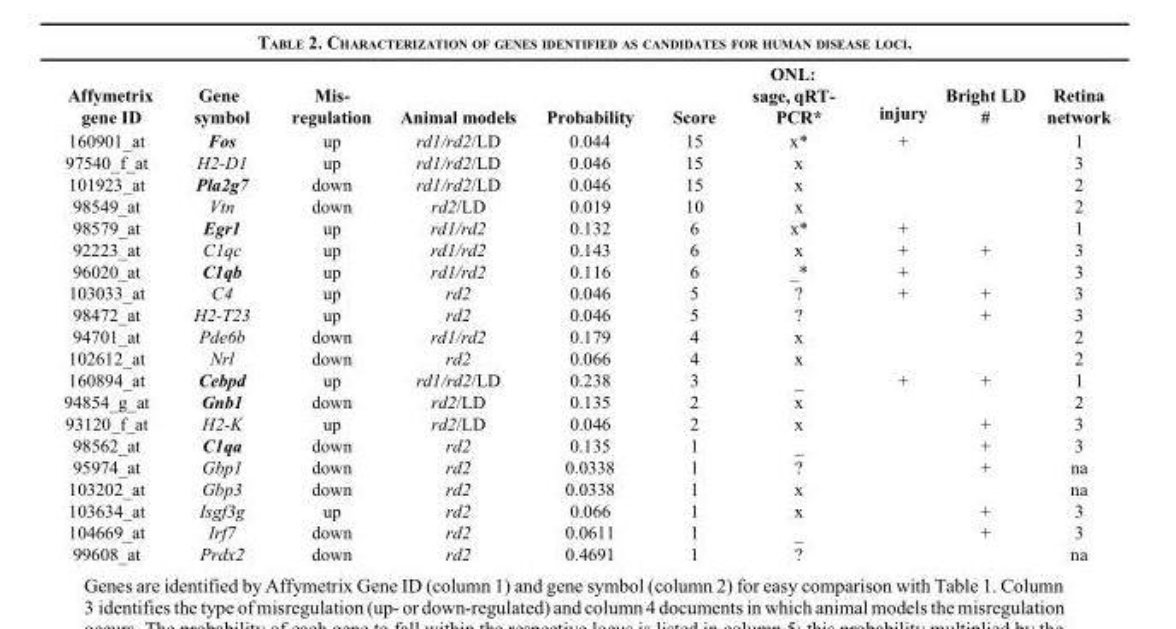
<table><thead><tr><td>Affymetrix gene ID</td><td>Gene symbol</td><td>Mis- regulation</td><td>Animal models</td><td>Probability</td><td>Score</td><td>ONL: sage, qRT- PCR*</td><td>injury</td><td>Bright LD #</td><td>Retina network</td></tr></thead><tbody><tr><td>160901_at</td><td>Fos</td><td>up</td><td>rd1/rd2/LD</td><td>0.044</td><td>15</td><td>x*</td><td>+</td><td></td><td>1</td></tr><tr><td>97540_f_at</td><td>H2-D1</td><td>up</td><td>rd1/rd2/LD</td><td>0.046</td><td>15</td><td>x</td><td></td><td></td><td>3</td></tr><tr><td>101923_at</td><td>Pla2g7</td><td>down</td><td>rd1/rd2/LD</td><td>0.046</td><td>15</td><td>x</td><td></td><td></td><td>2</td></tr><tr><td>98549_at</td><td>Vtn</td><td>down</td><td>rd2/LD</td><td>0.019</td><td>10</td><td>x</td><td></td><td></td><td>2</td></tr><tr><td>98579_at</td><td>Egr1</td><td>up</td><td>rd1/rd2</td><td>0.132</td><td>6</td><td>x*</td><td>+</td><td></td><td>1</td></tr><tr><td>92223_at</td><td>C1qc</td><td>up</td><td>rd1/rd2</td><td>0.143</td><td>6</td><td>x</td><td>+</td><td>+</td><td>3</td></tr><tr><td>96020_at</td><td>C1qb</td><td>up</td><td>rd1/rd2</td><td>0.116</td><td>6</td><td>_*</td><td>+</td><td></td><td>3</td></tr><tr><td>103033_at</td><td>C4</td><td>up</td><td>rd2</td><td>0.046</td><td>5</td><td>?</td><td>+</td><td>+</td><td>3</td></tr><tr><td>98472_at</td><td>H2-T23</td><td>up</td><td>rd2</td><td>0.046</td><td>5</td><td>?</td><td></td><td>+</td><td>3</td></tr><tr><td>94701_at</td><td>Pde6b</td><td>down</td><td>rd1/rd2</td><td>0.179</td><td>4</td><td>x</td><td></td><td></td><td>2</td></tr><tr><td>102612_at</td><td>Nrl</td><td>down</td><td>rd2</td><td>0.066</td><td>4</td><td>x</td><td></td><td></td><td>2</td></tr><tr><td>160894_at</td><td>Cebpd</td><td>up</td><td>rd1/rd2/LD</td><td>0.238</td><td>3</td><td>_</td><td>+</td><td>+</td><td>1</td></tr><tr><td>94854_g_at</td><td>Gnb1</td><td>down</td><td>rd2/LD</td><td>0.135</td><td>2</td><td>x</td><td></td><td></td><td>2</td></tr><tr><td>93120_f_at</td><td>H2-K</td><td>up</td><td>rd2/LD</td><td>0.046</td><td>2</td><td>x</td><td></td><td>+</td><td>3</td></tr><tr><td>98562_at</td><td>C1qa</td><td>down</td><td>rd2</td><td>0.135</td><td>1</td><td>_</td><td></td><td>+</td><td>3</td></tr><tr><td>95974_at</td><td>Gbp1</td><td>down</td><td>rd2</td><td>0.0338</td><td>1</td><td>?</td><td></td><td>+</td><td>na</td></tr><tr><td>103202_at</td><td>Gbp3</td><td>down</td><td>rd2</td><td>0.0338</td><td>1</td><td>x</td><td></td><td></td><td>na</td></tr><tr><td>103634_at</td><td>Isgf3g</td><td>up</td><td>rd2</td><td>0.066</td><td>1</td><td>x</td><td></td><td>+</td><td>3</td></tr><tr><td>104669_at</td><td>Irf7</td><td>down</td><td>rd2</td><td>0.0611</td><td>1</td><td>_</td><td></td><td>+</td><td>3</td></tr><tr><td>99608_at</td><td>Prdx2</td><td>down</td><td>rd2</td><td>0.4691</td><td>1</td><td>?</td><td></td><td></td><td>na</td></tr></tbody></table>